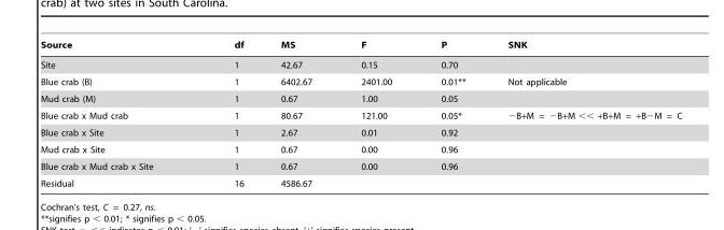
<table><thead><tr><td>Source</td><td>df</td><td>MS</td><td>F</td><td>P</td><td>SNK</td></tr></thead><tbody><tr><td>Site</td><td>1</td><td>42.67</td><td>0.15</td><td>0.70</td><td></td></tr><tr><td>Blue crab (B)</td><td>1</td><td>6402.67</td><td>2401.00</td><td>0.01**</td><td>Not applicable</td></tr><tr><td>Mud crab (M)</td><td>1</td><td>0.67</td><td>1.00</td><td>0.05</td><td></td></tr><tr><td>Blue crab x Mud crab</td><td>1</td><td>80.67</td><td>121.00</td><td>0.05*</td><td>−B+M = −B+M &lt;&lt; +B+M = +B−M = C</td></tr><tr><td>Blue crab x Site</td><td>1</td><td>2.67</td><td>0.01</td><td>0.92</td><td></td></tr><tr><td>Mud crab x Site</td><td>1</td><td>0.67</td><td>0.00</td><td>0.96</td><td></td></tr><tr><td>Blue crab x Mud crab x Site</td><td>1</td><td>0.67</td><td>0.00</td><td>0.96</td><td></td></tr><tr><td>Residual</td><td>16</td><td>4586.67</td><td></td><td></td><td></td></tr></tbody></table>